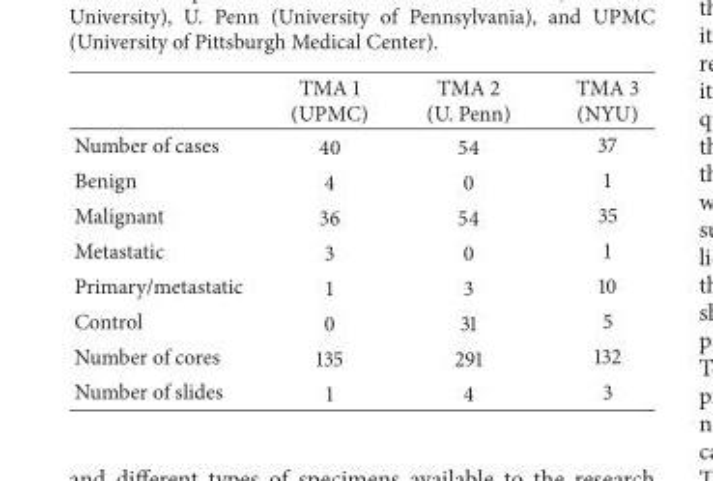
<table><thead><tr><td></td><td>TMA 1 (UPMC)</td><td>TMA 2 (U. Penn)</td><td>TMA 3 (NYU)</td></tr></thead><tbody><tr><td>Number of cases</td><td>40</td><td>54</td><td>37</td></tr><tr><td>Benign</td><td>4</td><td>0</td><td>1</td></tr><tr><td>Malignant</td><td>36</td><td>54</td><td>35</td></tr><tr><td>Metastatic</td><td>3</td><td>0</td><td>1</td></tr><tr><td>Primary/metastatic</td><td>1</td><td>3</td><td>10</td></tr><tr><td>Control</td><td>0</td><td>31</td><td>5</td></tr><tr><td>Number of cores</td><td>135</td><td>291</td><td>132</td></tr><tr><td>Number of slides</td><td>1</td><td>4</td><td>3</td></tr></tbody></table>